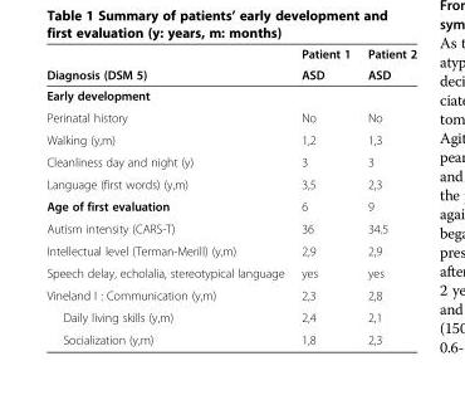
<table><thead><tr><td rowspan="2">Diagnosis (DSM 5)</td><td rowspan="2">Patient 1 ASD</td><td rowspan="2">Patient 2 ASD</td></tr><tr></tr></thead><tbody><tr><td colspan="3">Early development</td></tr><tr><td>Perinatal history</td><td>No</td><td>No</td></tr><tr><td>Walking (y,m)</td><td>1,2</td><td>1,3</td></tr><tr><td>Cleanliness day and night (y)</td><td>3</td><td>3</td></tr><tr><td>Language (first words) (y,m)</td><td>3,5</td><td>2,3</td></tr><tr><td>Age of first evaluation</td><td>6</td><td>9</td></tr><tr><td>Autism intensity (CARS-T)</td><td>36</td><td>34.5</td></tr><tr><td>Intellectual level (Terman-Merill) (y,m)</td><td>2,9</td><td>2,9</td></tr><tr><td>Speech delay, echolalia, stereotypical language</td><td>yes</td><td>yes</td></tr><tr><td>Vineland I : Communication (y,m)</td><td>2,3</td><td>2,8</td></tr><tr><td>Daily living skills (y,m)</td><td>2,4</td><td>2,1</td></tr><tr><td>Socialization (y,m)</td><td>1,8</td><td>2,3</td></tr></tbody></table>